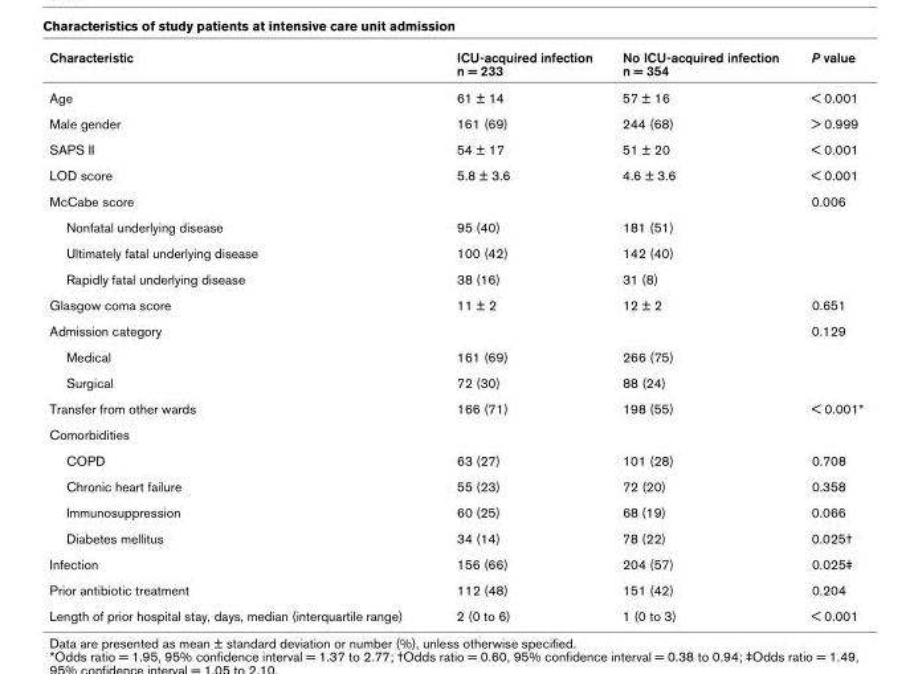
<table><thead><tr><td>Characteristic</td><td>ICU-acquired infection n = 233</td><td>No ICU-acquired infection n = 354</td><td>P value</td></tr></thead><tbody><tr><td>Age</td><td>61 ± 14</td><td>57 ± 16</td><td>&lt; 0.001</td></tr><tr><td>Male gender</td><td>161 (69)</td><td>244 (68)</td><td>&gt; 0.999</td></tr><tr><td>SAPS II</td><td>54 ± 17</td><td>51 ± 20</td><td>&lt; 0.001</td></tr><tr><td>LOD score</td><td>5.8 ± 3.6</td><td>4.6 ± 3.6</td><td>&lt; 0.001</td></tr><tr><td>McCabe score</td><td></td><td></td><td>0.006</td></tr><tr><td>Nonfatal underlying disease</td><td>95 (40)</td><td>181 (51)</td><td></td></tr><tr><td>Ultimately fatal underlying disease</td><td>100 (42)</td><td>142 (40)</td><td></td></tr><tr><td>Rapidly fatal underlying disease</td><td>38 (16)</td><td>31 (8)</td><td></td></tr><tr><td>Glasgow coma score</td><td>11 ± 2</td><td>12 ± 2</td><td>0.651</td></tr><tr><td>Admission category</td><td></td><td></td><td>0.129</td></tr><tr><td>Medical</td><td>161 (69)</td><td>266 (75)</td><td></td></tr><tr><td>Surgical</td><td>72 (30)</td><td>88 (24)</td><td></td></tr><tr><td>Transfer from other wards</td><td>166 (71)</td><td>198 (55)</td><td>&lt; 0.001*</td></tr><tr><td colspan="4">Comorbidities</td></tr><tr><td>COPD</td><td>63 (27)</td><td>101 (28)</td><td>0.708</td></tr><tr><td>Chronic heart failure</td><td>55 (23)</td><td>72 (20)</td><td>0.358</td></tr><tr><td>Immunosuppression</td><td>60 (25)</td><td>68 (19)</td><td>0.066</td></tr><tr><td>Diabetes mellitus</td><td>34 (14)</td><td>78 (22)</td><td>0.025†</td></tr><tr><td>Infection</td><td>156 (66)</td><td>204 (57)</td><td>0.025‡</td></tr><tr><td>Prior antibiotic treatment</td><td>112 (48)</td><td>151 (42)</td><td>0.204</td></tr><tr><td>Length of prior hospital stay, days, median (interquartile range)</td><td>2 (0 to 6)</td><td>1 (0 to 3)</td><td>&lt; 0.001</td></tr></tbody></table>